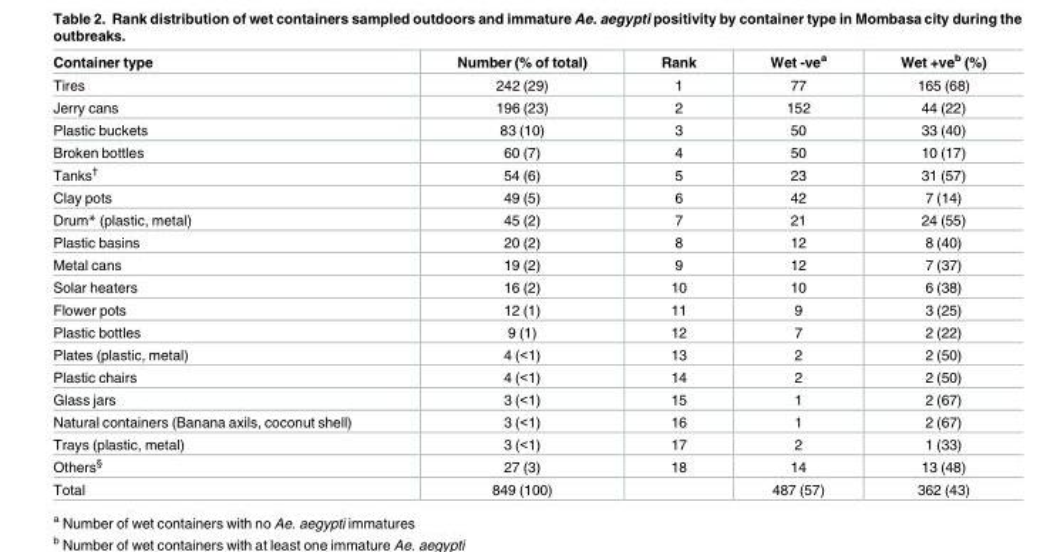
<table><thead><tr><td>Container type</td><td>Number (% of total)</td><td>Rank</td><td>Wet -ve<sup>a</sup></td><td>Wet +ve<sup>b</sup> (%)</td></tr></thead><tbody><tr><td>Tires</td><td>242 (29)</td><td>1</td><td>77</td><td>165 (68)</td></tr><tr><td>Jerry cans</td><td>196 (23)</td><td>2</td><td>152</td><td>44 (22)</td></tr><tr><td>Plastic buckets</td><td>83 (10)</td><td>3</td><td>50</td><td>33 (40)</td></tr><tr><td>Broken bottles</td><td>60 (7)</td><td>4</td><td>50</td><td>10 (17)</td></tr><tr><td>Tanks<sup>†</sup></td><td>54 (6)</td><td>5</td><td>23</td><td>31 (57)</td></tr><tr><td>Clay pots</td><td>49 (5)</td><td>6</td><td>42</td><td>7 (14)</td></tr><tr><td>Drum* (plastic, metal)</td><td>45 (2)</td><td>7</td><td>21</td><td>24 (55)</td></tr><tr><td>Plastic basins</td><td>20 (2)</td><td>8</td><td>12</td><td>8 (40)</td></tr><tr><td>Metal cans</td><td>19 (2)</td><td>9</td><td>12</td><td>7 (37)</td></tr><tr><td>Solar heaters</td><td>16 (2)</td><td>10</td><td>10</td><td>6 (38)</td></tr><tr><td>Flower pots</td><td>12 (1)</td><td>11</td><td>9</td><td>3 (25)</td></tr><tr><td>Plastic bottles</td><td>9 (1)</td><td>12</td><td>7</td><td>2 (22)</td></tr><tr><td>Plates (plastic, metal)</td><td>4 (&lt;1)</td><td>13</td><td>2</td><td>2 (50)</td></tr><tr><td>Plastic chairs</td><td>4 (&lt;1)</td><td>14</td><td>2</td><td>2 (50)</td></tr><tr><td>Glass jars</td><td>3 (&lt;1)</td><td>15</td><td>1</td><td>2 (67)</td></tr><tr><td>Natural containers (Banana axils, coconut shell)</td><td>3 (&lt;1)</td><td>16</td><td>1</td><td>2 (67)</td></tr><tr><td>Trays (plastic, metal)</td><td>3 (&lt;1)</td><td>17</td><td>2</td><td>1 (33)</td></tr><tr><td>Others<sup>§</sup></td><td>27 (3)</td><td>18</td><td>14</td><td>13 (48)</td></tr><tr><td>Total</td><td>849 (100)</td><td></td><td>487 (57)</td><td>362 (43)</td></tr></tbody></table>